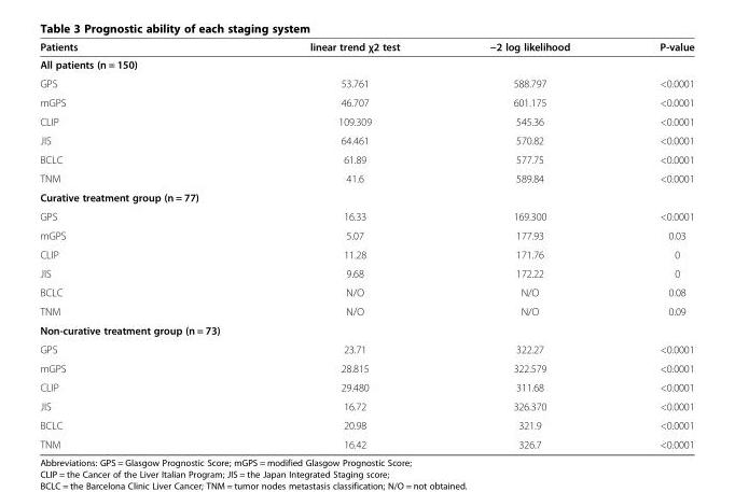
<table><thead><tr><td>Patients</td><td>linear trend χ2 test</td><td>−2 log likelihood</td><td>P-value</td></tr></thead><tbody><tr><td colspan="4">All patients (n = 150)</td></tr><tr><td>GPS</td><td>53.761</td><td>588.797</td><td>&lt;0.0001</td></tr><tr><td>mGPS</td><td>46.707</td><td>601.175</td><td>&lt;0.0001</td></tr><tr><td>CLIP</td><td>109.309</td><td>545.36</td><td>&lt;0.0001</td></tr><tr><td>JIS</td><td>64.461</td><td>570.82</td><td>&lt;0.0001</td></tr><tr><td>BCLC</td><td>61.89</td><td>577.75</td><td>&lt;0.0001</td></tr><tr><td>TNM</td><td>41.6</td><td>589.84</td><td>&lt;0.0001</td></tr><tr><td colspan="4">Curative treatment group (n = 77)</td></tr><tr><td>GPS</td><td>16.33</td><td>169.300</td><td>&lt;0.0001</td></tr><tr><td>mGPS</td><td>5.07</td><td>177.93</td><td>0.03</td></tr><tr><td>CLIP</td><td>11.28</td><td>171.76</td><td>0</td></tr><tr><td>JIS</td><td>9.68</td><td>172.22</td><td>0</td></tr><tr><td>BCLC</td><td>N/O</td><td>N/O</td><td>0.08</td></tr><tr><td>TNM</td><td>N/O</td><td>N/O</td><td>0.09</td></tr><tr><td colspan="4">Non-curative treatment group (n = 73)</td></tr><tr><td>GPS</td><td>23.71</td><td>322.27</td><td>&lt;0.0001</td></tr><tr><td>mGPS</td><td>28.815</td><td>322.579</td><td>&lt;0.0001</td></tr><tr><td>CLIP</td><td>29.480</td><td>311.68</td><td>&lt;0.0001</td></tr><tr><td>JIS</td><td>16.72</td><td>326.370</td><td>&lt;0.0001</td></tr><tr><td>BCLC</td><td>20.98</td><td>321.9</td><td>&lt;0.0001</td></tr><tr><td>TNM</td><td>16.42</td><td>326.7</td><td>&lt;0.0001</td></tr></tbody></table>